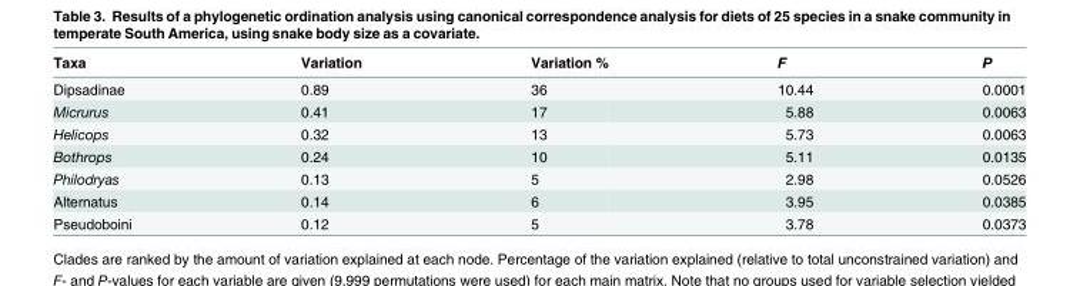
<table><thead><tr><td>Taxa</td><td>Variation</td><td>Variation %</td><td>F</td><td>P</td></tr></thead><tbody><tr><td>Dipsadinae</td><td>0.89</td><td>36</td><td>10.44</td><td>0.0001</td></tr><tr><td>Micrurus</td><td>0.41</td><td>17</td><td>5.88</td><td>0.0063</td></tr><tr><td>Helicops</td><td>0.32</td><td>13</td><td>5.73</td><td>0.0063</td></tr><tr><td>Bothrops</td><td>0.24</td><td>10</td><td>5.11</td><td>0.0135</td></tr><tr><td>Philodryas</td><td>0.13</td><td>5</td><td>2.98</td><td>0.0526</td></tr><tr><td>Alternatus</td><td>0.14</td><td>6</td><td>3.95</td><td>0.0385</td></tr><tr><td>Pseudoboini</td><td>0.12</td><td>5</td><td>3.78</td><td>0.0373</td></tr></tbody></table>